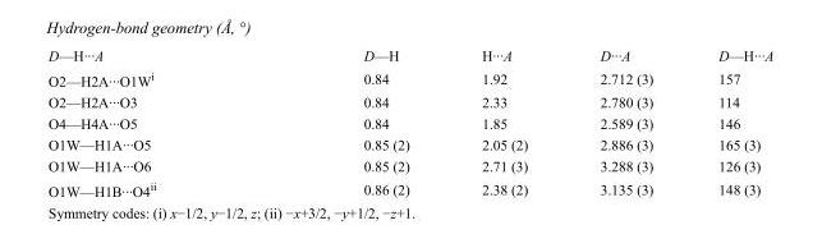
<table><tbody><tr><td>D—H···A</td><td>D—H</td><td>H···A</td><td>D···A</td><td>D—H···A</td></tr><tr><td>O2—H2A···O1W<sup>i</sup></td><td>0.84</td><td>1.92</td><td>2.712 (3)</td><td>157</td></tr><tr><td>O2—H2A···O3</td><td>0.84</td><td>2.33</td><td>2.780 (3)</td><td>114</td></tr><tr><td>O4—H4A···O5</td><td>0.84</td><td>1.85</td><td>2.589 (3)</td><td>146</td></tr><tr><td>O1W—H1A···O5</td><td>0.85 (2)</td><td>2.05 (2)</td><td>2.886 (3)</td><td>165 (3)</td></tr><tr><td>O1W—H1A···O6</td><td>0.85 (2)</td><td>2.71 (3)</td><td>3.288 (3)</td><td>126 (3)</td></tr><tr><td>O1W—H1B···O4<sup>ii</sup></td><td>0.86 (2)</td><td>2.38 (2)</td><td>3.135 (3)</td><td>148 (3)</td></tr></tbody></table>